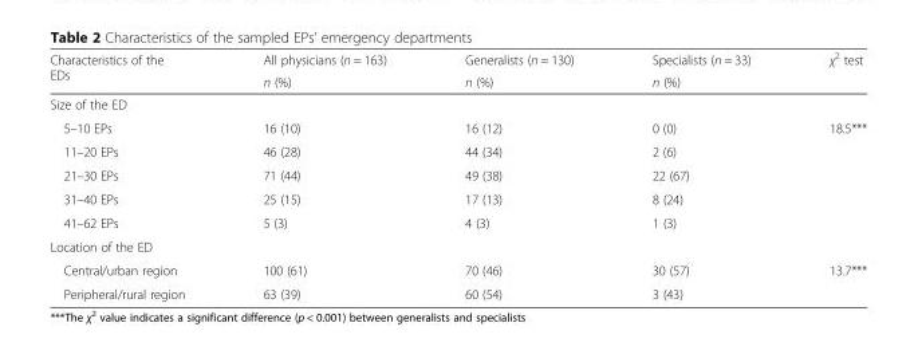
<table><thead><tr><td rowspan="2">Characteristics of the EDs</td><td rowspan="2">All physicians (n = 163) n (%)</td><td rowspan="2">Generalists (n = 130) n (%)</td><td rowspan="2">Specialists (n = 33) n (%)</td><td rowspan="2">χ<sup>2</sup> test</td></tr><tr></tr></thead><tbody><tr><td colspan="5">Size of the ED</td></tr><tr><td>5–10 EPs</td><td>16 (10)</td><td>16 (12)</td><td>0 (0)</td><td rowspan="5">18.5***</td></tr><tr><td>11–20 EPs</td><td>46 (28)</td><td>44 (34)</td><td>2 (6)</td></tr><tr><td>21–30 EPs</td><td>71 (44)</td><td>49 (38)</td><td>22 (67)</td></tr><tr><td>31–40 EPs</td><td>25 (15)</td><td>17 (13)</td><td>8 (24)</td></tr><tr><td>41–62 EPs</td><td>5 (3)</td><td>4 (3)</td><td>1 (3)</td></tr><tr><td colspan="5">Location of the ED</td></tr><tr><td>Central/urban region</td><td>100 (61)</td><td>70 (46)</td><td>30 (57)</td><td rowspan="2">13.7***</td></tr><tr><td>Peripheral/rural region</td><td>63 (39)</td><td>60 (54)</td><td>3 (43)</td></tr></tbody></table>